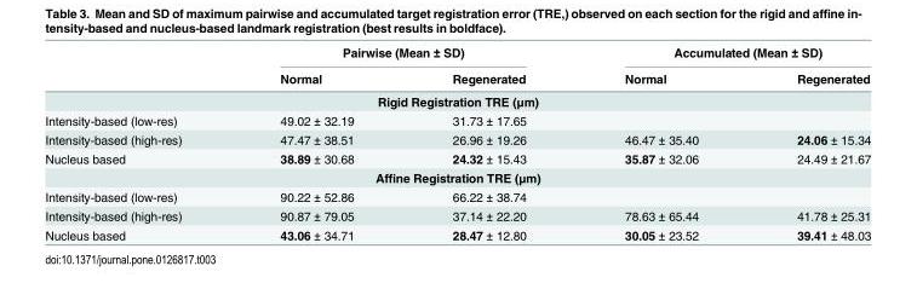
<table><thead><tr><td rowspan="2"></td><td colspan="2">Pairwise (Mean ± SD)</td><td colspan="2">Accumulated (Mean ± SD)</td></tr><tr><td>Normal</td><td>Regenerated</td><td>Normal</td><td>Regenerated</td></tr></thead><tbody><tr><td colspan="5">Rigid Registration TRE (μm)</td></tr><tr><td>Intensity-based (low-res)</td><td>49.02 ± 32.19</td><td>31.73 ± 17.65</td><td></td><td></td></tr><tr><td>Intensity-based (high-res)</td><td>47.47 ± 38.51</td><td>26.96 ± 19.26</td><td>46.47 ± 35.40</td><td>24.06 ± 15.34</td></tr><tr><td>Nucleus based</td><td>38.89 ± 30.68</td><td>24.32 ± 15.43</td><td>35.87 ± 32.06</td><td>24.49 ± 21.67</td></tr><tr><td colspan="5">Affine Registration TRE (μm)</td></tr><tr><td>Intensity-based (low-res)</td><td>90.22 ± 52.86</td><td>66.22 ± 38.74</td><td></td><td></td></tr><tr><td>Intensity-based (high-res)</td><td>90.87 ± 79.05</td><td>37.14 ± 22.20</td><td>78.63 ± 65.44</td><td>41.78 ± 25.31</td></tr><tr><td>Nucleus based</td><td>43.06 ± 34.71</td><td>28.47 ± 12.80</td><td>30.05 ± 23.52</td><td>39.41 ± 48.03</td></tr></tbody></table>